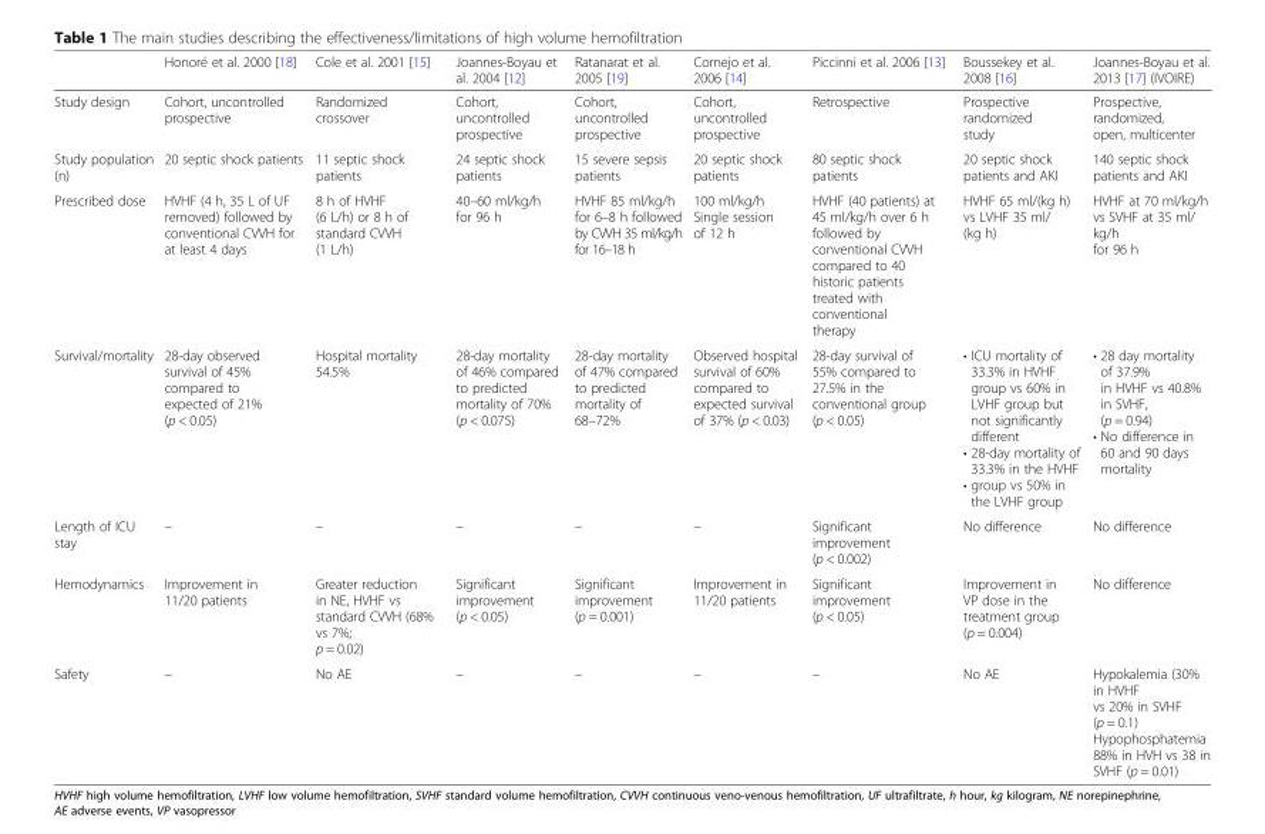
<table><thead><tr><td></td><td>Honoré et al. 2000 [18]</td><td>Cole et al. 2001 [15]</td><td>Joannes-Boyau et al. 2004 [12]</td><td>Ratanarat et al. 2005 [19]</td><td>Cornejo et al. 2006 [14]</td><td>Piccinni et al. 2006 [13]</td><td>Boussekey et al. 2008 [16]</td><td>Joannes-Boyau et al. 2013 [17] (IVOIRE)</td></tr></thead><tbody><tr><td>Study design</td><td>Cohort, uncontrolled prospective</td><td>Randomized crossover</td><td>Cohort, uncontrolled prospective</td><td>Cohort, uncontrolled prospective</td><td>Cohort, uncontrolled prospective</td><td>Retrospective</td><td>Prospective randomized study</td><td>Prospective, randomized, open, multicenter</td></tr><tr><td>Study population (n)</td><td>20 septic shock patients</td><td>11 septic shock patients</td><td>24 septic shock patients</td><td>15 severe sepsis patients</td><td>20 septic shock patients</td><td>80 septic shock patients</td><td>20 septic shock patients and AKI</td><td>140 septic shock patients and AKI</td></tr><tr><td>Prescribed dose</td><td>HVHF (4 h, 35 L of UF removed) followed by conventional CVVH for at least 4 days</td><td>8 h of HVHF (6 L/h) or 8 h of standard CVVH (1 L/h)</td><td>40–60 ml/kg/h for 96 h</td><td>HVHF 85 ml/kg/h for 6–8 h followed by CVVH 35 ml/kg/h for 16–18 h</td><td>100 ml/kg/h Single session of 12 h</td><td>HVHF (40 patients) at 45 ml/kg/h over 6 h followed by conventional CVVH compared to 40 historic patients treated with conventional therapy</td><td>HVHF 65 ml/(kg h) vs LVHF 35 ml/ (kg h)</td><td>HVHF at 70 ml/kg/h vs SVHF at 35 ml/ kg/h for 96 h</td></tr><tr><td>Survival/mortality</td><td>28-day observed survival of 45% compared to expected of 21% (p &lt; 0.05)</td><td>Hospital mortality 54.5%</td><td>28-day mortality of 46% compared to predicted mortality of 70% (p &lt; 0.075)</td><td>28-day mortality of 47% compared to predicted mortality of 68–72%</td><td>Observed hospital survival of 60% compared to expected survival of 37% (p &lt; 0.03)</td><td>28-day survival of 55% compared to 27.5% in the conventional group (p &lt; 0.05)</td><td>• ICU mortality of 33.3% in HVHF group vs 60% in LVHF group but not significantly different • 28-day mortality of 33.3% in the HVHF • group vs 50% in the LVHF group</td><td>• 28 day mortality of 37.9% in HVHF vs 40.8% in SVHF, (p = 0.94) • No difference in 60 and 90 days mortality</td></tr><tr><td>Length of ICU stay</td><td>–</td><td>–</td><td>–</td><td>–</td><td>–</td><td>Significant improvement (p &lt; 0.002)</td><td>No difference</td><td>No difference</td></tr><tr><td>Hemodynamics</td><td>Improvement in 11/20 patients</td><td>Greater reduction in NE, HVHF vs standard CVVH (68% vs 7%; p = 0.02)</td><td>Significant improvement (p &lt; 0.05)</td><td>Significant improvement (p = 0.001)</td><td>Improvement in 11/20 patients</td><td>Significant improvement (p &lt; 0.05)</td><td>Improvement in VP dose in the treatment group (p = 0.004)</td><td>No difference</td></tr><tr><td>Safety</td><td>–</td><td>No AE</td><td>–</td><td>–</td><td>–</td><td>–</td><td>No AE</td><td>Hypokalemia (30% in HVHF vs 20% in SVHF (p = 0.1) Hypophosphatemia 88% in HVH vs 38 in SVHF (p = 0.01)</td></tr></tbody></table>